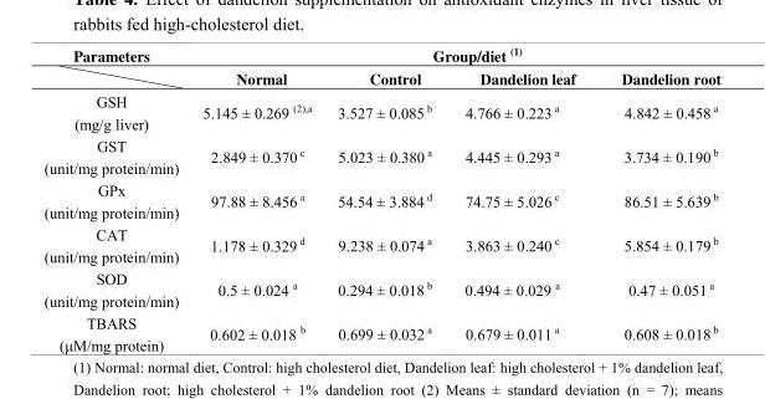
<table><thead><tr><td rowspan="2">Parameters</td><td colspan="4">Group/diet <sup>(1)</sup></td></tr><tr><td>Normal</td><td>Control</td><td>Dandelion leaf</td><td>Dandelion root</td></tr></thead><tbody><tr><td>GSH (mg/g liver)</td><td>5.145 ± 0.269 <sup>(2),a</sup></td><td>3.527 ± 0.085 <sup>b</sup></td><td>4.766 ± 0.223 <sup>a</sup></td><td>4.842 ± 0.458 <sup>a</sup></td></tr><tr><td>GST (unit/mg protein/min)</td><td>2.849 ± 0.370 <sup>c</sup></td><td>5.023 ± 0.380 <sup>a</sup></td><td>4.445 ± 0.293 <sup>a</sup></td><td>3.734 ± 0.190 <sup>b</sup></td></tr><tr><td>GPx (unit/mg protein/min)</td><td>97.88 ± 8.456 <sup>a</sup></td><td>54.54 ± 3.884 <sup>d</sup></td><td>74.75 ± 5.026 <sup>c</sup></td><td>86.51 ± 5.639 <sup>b</sup></td></tr><tr><td>CAT (unit/mg protein/min)</td><td>1.178 ± 0.329 <sup>d</sup></td><td>9.238 ± 0.074 <sup>a</sup></td><td>3.863 ± 0.240 <sup>c</sup></td><td>5.854 ± 0.179 <sup>b</sup></td></tr><tr><td>SOD (unit/mg protein/min)</td><td>0.5 ± 0.024 <sup>a</sup></td><td>0.294 ± 0.018 <sup>b</sup></td><td>0.494 ± 0.029 <sup>a</sup></td><td>0.47 ± 0.051 <sup>a</sup></td></tr><tr><td>TBARS (μM/mg protein)</td><td>0.602 ± 0.018 <sup>b</sup></td><td>0.699 ± 0.032 <sup>a</sup></td><td>0.679 ± 0.011 <sup>a</sup></td><td>0.608 ± 0.018 <sup>b</sup></td></tr></tbody></table>